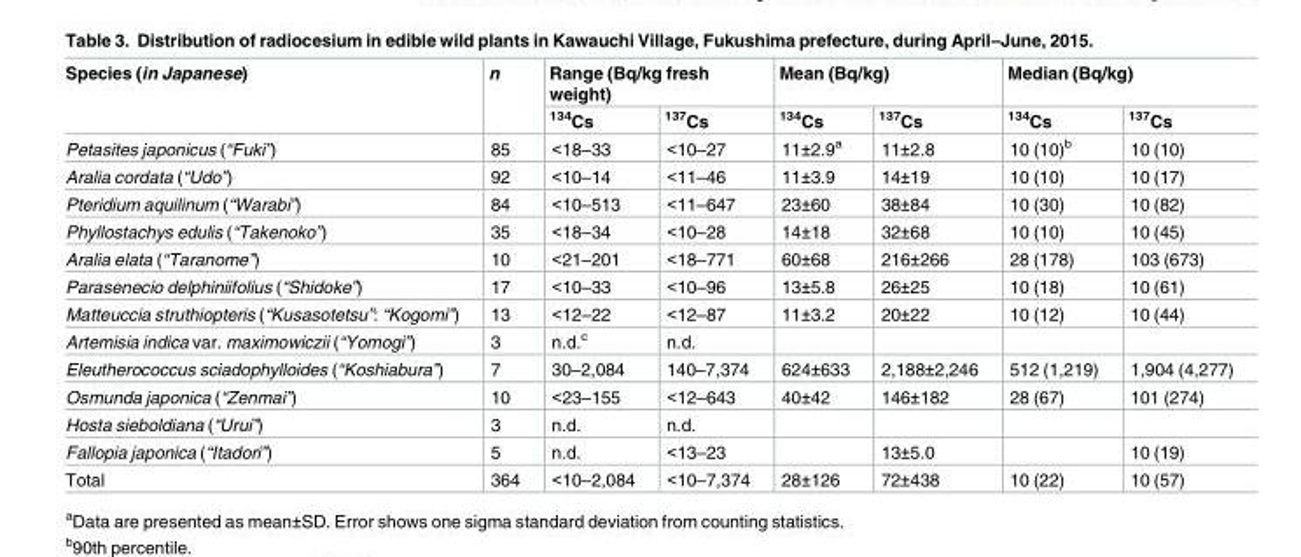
<table><thead><tr><td rowspan="2">Species (in Japanese)</td><td rowspan="2">n</td><td colspan="2">Range (Bq/kg fresh weight)</td><td colspan="2">Mean (Bq/kg)</td><td colspan="2">Median (Bq/kg)</td></tr><tr><td><sup>134</sup>Cs</td><td><sup>137</sup>Cs</td><td><sup>134</sup>Cs</td><td><sup>137</sup>Cs</td><td><sup>134</sup>Cs</td><td><sup>137</sup>Cs</td></tr></thead><tbody><tr><td>Petasites japonicus (“Fuki”)</td><td>85</td><td>&lt;18–33</td><td>&lt;10–27</td><td>11±2.9<sup>a</sup></td><td>11±2.8</td><td>10 (10)<sup>b</sup></td><td>10 (10)</td></tr><tr><td>Aralia cordata (“Udo”)</td><td>92</td><td>&lt;10–14</td><td>&lt;11–46</td><td>11±3.9</td><td>14±19</td><td>10 (10)</td><td>10 (17)</td></tr><tr><td>Pteridium aquilinum (“Warabi”)</td><td>84</td><td>&lt;10–513</td><td>&lt;11–647</td><td>23±60</td><td>38±84</td><td>10 (30)</td><td>10 (82)</td></tr><tr><td>Phyllostachys edulis (“Takenoko”)</td><td>35</td><td>&lt;18–34</td><td>&lt;10–28</td><td>14±18</td><td>32±68</td><td>10 (10)</td><td>10 (45)</td></tr><tr><td>Aralia elata (“Taranome”)</td><td>10</td><td>&lt;21–201</td><td>&lt;18–771</td><td>60±68</td><td>216±266</td><td>28 (178)</td><td>103 (673)</td></tr><tr><td>Parasenecio delphiniifolius (“Shidoke”)</td><td>17</td><td>&lt;10–33</td><td>&lt;10–96</td><td>13±5.8</td><td>26±25</td><td>10 (18)</td><td>10 (61)</td></tr><tr><td>Matteuccia struthiopteris (“Kusasotetsu”: “Kogomi”)</td><td>13</td><td>&lt;12–22</td><td>&lt;12–87</td><td>11±3.2</td><td>20±22</td><td>10 (12)</td><td>10 (44)</td></tr><tr><td>Artemisia indica var. maximowiczii (“Yomogi”)</td><td>3</td><td>n.d.<sup>c</sup></td><td>n.d.</td><td></td><td></td><td></td><td></td></tr><tr><td>Eleutherococcus sciadophylloides (“Koshiabura”)</td><td>7</td><td>30–2,084</td><td>140–7,374</td><td>624±633</td><td>2,188±2,246</td><td>512 (1,219)</td><td>1,904 (4,277)</td></tr><tr><td>Osmunda japonica (“Zenmai”)</td><td>10</td><td>&lt;23–155</td><td>&lt;12–643</td><td>40±42</td><td>146±182</td><td>28 (67)</td><td>101 (274)</td></tr><tr><td>Hosta sieboldiana (“Urui”)</td><td>3</td><td>n.d.</td><td>n.d.</td><td></td><td></td><td></td><td></td></tr><tr><td>Fallopia japonica (“Itadori”)</td><td>5</td><td>n.d.</td><td>&lt;13–23</td><td></td><td>13±5.0</td><td></td><td>10 (19)</td></tr><tr><td>Total</td><td>364</td><td>&lt;10–2,084</td><td>&lt;10–7,374</td><td>28±126</td><td>72±438</td><td>10 (22)</td><td>10 (57)</td></tr></tbody></table>